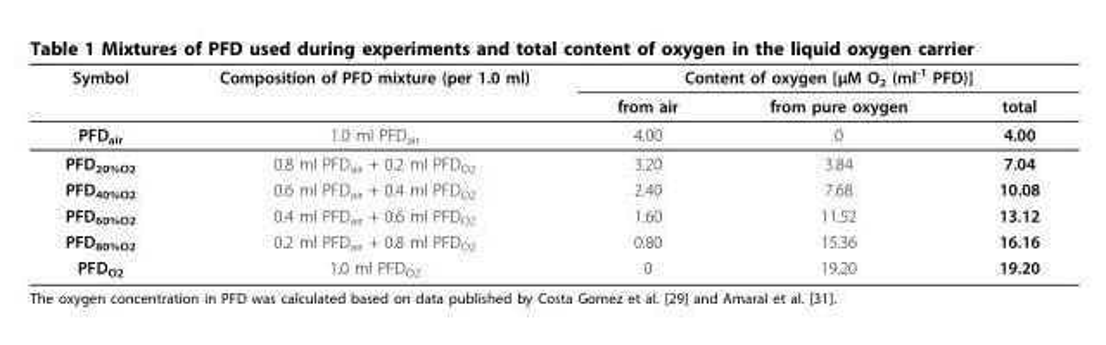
<table><thead><tr><td rowspan="2">Symbol</td><td rowspan="2">Composition of PFD mixture (per 1.0 ml)</td><td colspan="3">Content of oxygen [μM O<sub>2</sub> (ml<sup>-1</sup> PFD)]</td></tr><tr><td>from air</td><td>from pure oxygen</td><td>total</td></tr></thead><tbody><tr><td>PFD<sub>air</sub></td><td>1.0 ml PFD<sub>air</sub></td><td>4.00</td><td>0</td><td>4.00</td></tr><tr><td>PFD<sub>20%O2</sub></td><td>0.8 ml PFD<sub>air</sub> + 0.2 ml PFD<sub>O2</sub></td><td>3.20</td><td>3.84</td><td>7.04</td></tr><tr><td>PFD<sub>40%O2</sub></td><td>0.6 ml PFD<sub>air</sub> + 0.4 ml PFD<sub>O2</sub></td><td>2.40</td><td>7.68</td><td>10.08</td></tr><tr><td>PFD<sub>60%O2</sub></td><td>0.4 ml PFD<sub>air</sub> + 0.6 ml PFD<sub>O2</sub></td><td>1.60</td><td>11.52</td><td>13.12</td></tr><tr><td>PFD<sub>80%O2</sub></td><td>0.2 ml PFD<sub>air</sub> + 0.8 ml PFD<sub>O2</sub></td><td>0.80</td><td>15.36</td><td>16.16</td></tr><tr><td>PFD<sub>O2</sub></td><td>1.0 ml PFD<sub>O2</sub></td><td>0</td><td>19.20</td><td>19.20</td></tr></tbody></table>